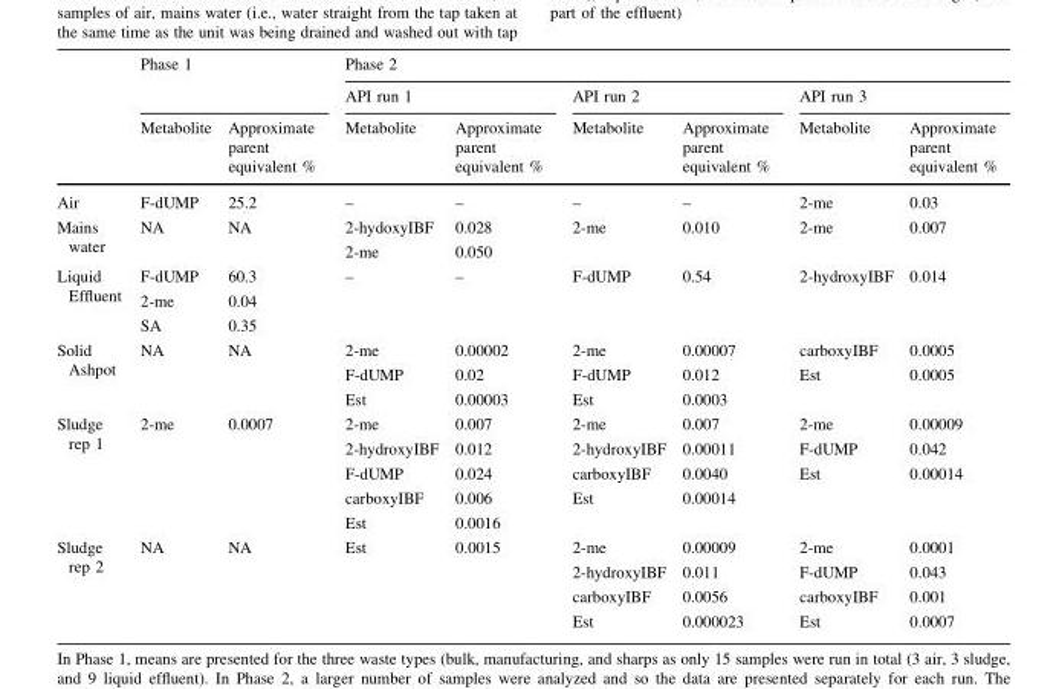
<table><thead><tr><td rowspan="3"></td><td rowspan="2" colspan="2">Phase 1</td><td colspan="6">Phase 2</td></tr><tr><td colspan="2">API run 1</td><td colspan="2">API run 2</td><td colspan="2">API run 3</td></tr><tr><td>Metabolite</td><td>Approximate parent equivalent %</td><td>Metabolite</td><td>Approximate parent equivalent %</td><td>Metabolite</td><td>Approximate parent equivalent %</td><td>Metabolite</td><td>Approximate parent equivalent %</td></tr></thead><tbody><tr><td>Air</td><td>F-dUMP</td><td>25.2</td><td>–</td><td>–</td><td>–</td><td>–</td><td>2-me</td><td>0.03</td></tr><tr><td>Mains water</td><td>NA</td><td>NA</td><td>2-hydoxyIBF 2-me</td><td>0.028 0.050</td><td>2-me</td><td>0.010</td><td>2-me</td><td>0.007</td></tr><tr><td>Liquid Effluent</td><td>F-dUMP 2-me SA</td><td>60.3 0.04 0.35</td><td>–</td><td>–</td><td>F-dUMP</td><td>0.54</td><td>2-hydroxyIBF</td><td>0.014</td></tr><tr><td>Solid Ashpot</td><td>NA</td><td>NA</td><td>2-me F-dUMP Est</td><td>0.00002 0.02 0.00003</td><td>2-me F-dUMP Est</td><td>0.00007 0.012 0.0003</td><td>carboxyIBF Est</td><td>0.0005 0.0005</td></tr><tr><td>Sludge rep 1</td><td>2-me</td><td>0.0007</td><td>2-me 2-hydroxyIBF F-dUMP carboxyIBF Est</td><td>0.007 0.012 0.024 0.006 0.0016</td><td>2-me 2-hydroxyIBF carboxyIBF Est</td><td>0.007 0.00011 0.0040 0.00014</td><td>2-me F-dUMP Est</td><td>0.00009 0.042 0.00014</td></tr><tr><td>Sludge rep 2</td><td>NA</td><td>NA</td><td>Est</td><td>0.0015</td><td>2-me 2-hydroxyIBF carboxyIBF Est</td><td>0.00009 0.011 0.0056 0.000023</td><td>2-me F-dUMP carboxyIBF Est</td><td>0.0001 0.043 0.001 0.0007</td></tr></tbody></table>